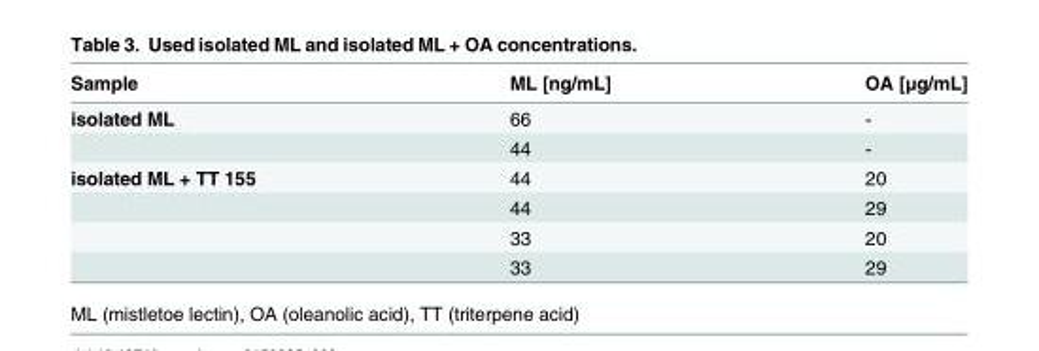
<table><thead><tr><td>Sample</td><td>ML [ng/mL]</td><td>OA [μg/mL]</td></tr></thead><tbody><tr><td rowspan="2">isolated ML</td><td>66</td><td>-</td></tr><tr><td>44</td><td>-</td></tr><tr><td rowspan="4">isolated ML + TT 155</td><td>44</td><td>20</td></tr><tr><td>44</td><td>29</td></tr><tr><td>33</td><td>20</td></tr><tr><td>33</td><td>29</td></tr></tbody></table>